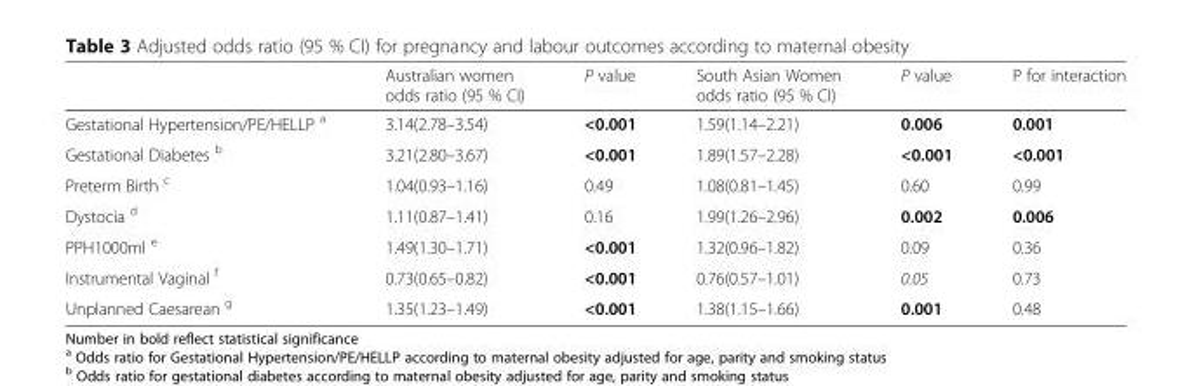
<table><thead><tr><td></td><td>Australian women odds ratio (95 % CI)</td><td>P value</td><td>South Asian Women odds ratio (95 % CI)</td><td>P value</td><td>P for interaction</td></tr></thead><tbody><tr><td>Gestational Hypertension/PE/HELLP <sup>a</sup></td><td>3.14(2.78–3.54)</td><td>&lt;0.001</td><td>1.59(1.14–2.21)</td><td>0.006</td><td>0.001</td></tr><tr><td>Gestational Diabetes <sup>b</sup></td><td>3.21(2.80–3.67)</td><td>&lt;0.001</td><td>1.89(1.57–2.28)</td><td>&lt;0.001</td><td>&lt;0.001</td></tr><tr><td>Preterm Birth <sup>c</sup></td><td>1.04(0.93–1.16)</td><td>0.49</td><td>1.08(0.81–1.45)</td><td>0.60</td><td>0.99</td></tr><tr><td>Dystocia <sup>d</sup></td><td>1.11(0.87–1.41)</td><td>0.16</td><td>1.99(1.26–2.96)</td><td>0.002</td><td>0.006</td></tr><tr><td>PPH1000ml <sup>e</sup></td><td>1.49(1.30–1.71)</td><td>&lt;0.001</td><td>1.32(0.96–1.82)</td><td>0.09</td><td>0.36</td></tr><tr><td>Instrumental Vaginal <sup>f</sup></td><td>0.73(0.65–0.82)</td><td>&lt;0.001</td><td>0.76(0.57–1.01)</td><td>0.05</td><td>0.73</td></tr><tr><td>Unplanned Caesarean <sup>g</sup></td><td>1.35(1.23–1.49)</td><td>&lt;0.001</td><td>1.38(1.15–1.66)</td><td>0.001</td><td>0.48</td></tr></tbody></table>